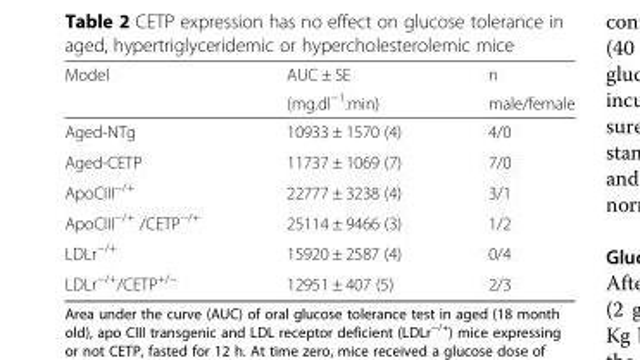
<table><thead><tr><td rowspan="2">Model</td><td rowspan="2">AUC ± SE (mg.dl<sup>−1</sup>.min)</td><td rowspan="2">n male/female</td></tr><tr></tr></thead><tbody><tr><td>Aged-NTg</td><td>10933 ± 1570 (4)</td><td>4/0</td></tr><tr><td>Aged-CETP</td><td>11737 ± 1069 (7)</td><td>7/0</td></tr><tr><td>ApoCIII<sup>−/+</sup></td><td>22777 ± 3238 (4)</td><td>3/1</td></tr><tr><td>ApoCIII<sup>−/+</sup> /CETP<sup>−/+</sup></td><td>25114 ± 9466 (3)</td><td>1/2</td></tr><tr><td>LDLr<sup>−/+</sup></td><td>15920 ± 2587 (4)</td><td>0/4</td></tr><tr><td>LDLr<sup>−/+</sup>/CETP<sup>+/−</sup></td><td>12951 ± 407 (5)</td><td>2/3</td></tr></tbody></table>